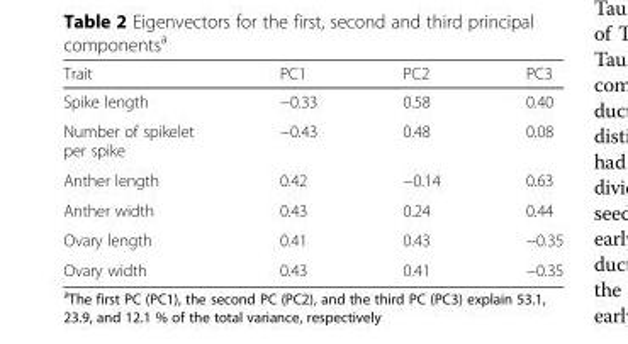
<table><thead><tr><td>Trait</td><td>PC1</td><td>PC2</td><td>PC3</td></tr></thead><tbody><tr><td>Spike length</td><td>−0.33</td><td>0.58</td><td>0.40</td></tr><tr><td>Number of spikelet per spike</td><td>−0.43</td><td>0.48</td><td>0.08</td></tr><tr><td>Anther length</td><td>0.42</td><td>−0.14</td><td>0.63</td></tr><tr><td>Anther width</td><td>0.43</td><td>0.24</td><td>0.44</td></tr><tr><td>Ovary length</td><td>0.41</td><td>0.43</td><td>−0.35</td></tr><tr><td>Ovary width</td><td>0.43</td><td>0.41</td><td>−0.35</td></tr></tbody></table>